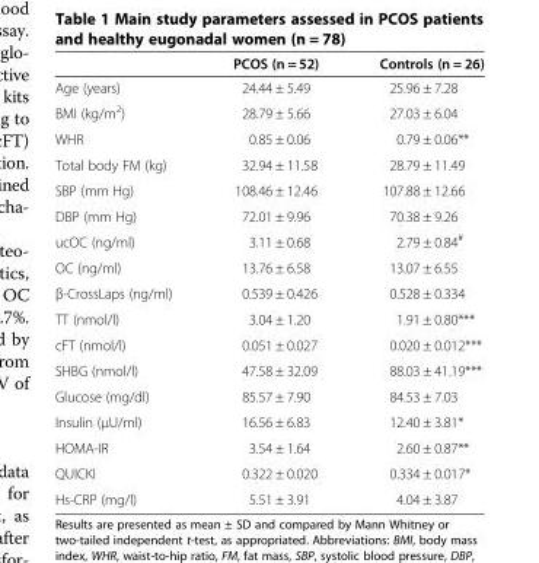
<table><thead><tr><td></td><td>PCOS (n = 52)</td><td>Controls (n = 26)</td></tr></thead><tbody><tr><td>Age (years)</td><td>24.44 ± 5.49</td><td>25.96 ± 7.28</td></tr><tr><td>BMI (kg/m<sup>2</sup>)</td><td>28.79 ± 5.66</td><td>27.03 ± 6.04</td></tr><tr><td>WHR</td><td>0.85 ± 0.06</td><td>0.79 ± 0.06**</td></tr><tr><td>Total body FM (kg)</td><td>32.94 ± 11.58</td><td>28.79 ± 11.49</td></tr><tr><td>SBP (mm Hg)</td><td>108.46 ± 12.46</td><td>107.88 ± 12.66</td></tr><tr><td>DBP (mm Hg)</td><td>72.01 ± 9.96</td><td>70.38 ± 9.26</td></tr><tr><td>ucOC (ng/ml)</td><td>3.11 ± 0.68</td><td>2.79 ± 0.84<sup>#</sup></td></tr><tr><td>OC (ng/ml)</td><td>13.76 ± 6.58</td><td>13.07 ± 6.55</td></tr><tr><td>β-CrossLaps (ng/ml)</td><td>0.539 ± 0.426</td><td>0.528 ± 0.334</td></tr><tr><td>TT (nmol/l)</td><td>3.04 ± 1.20</td><td>1.91 ± 0.80***</td></tr><tr><td>cFT (nmol/l)</td><td>0.051 ± 0.027</td><td>0.020 ± 0.012***</td></tr><tr><td>SHBG (nmol/l)</td><td>47.58 ± 32.09</td><td>88.03 ± 41.19***</td></tr><tr><td>Glucose (mg/dl)</td><td>85.57 ± 7.90</td><td>84.53 ± 7.03</td></tr><tr><td>Insulin (μU/ml)</td><td>16.56 ± 6.83</td><td>12.40 ± 3.81*</td></tr><tr><td>HOMA-IR</td><td>3.54 ± 1.64</td><td>2.60 ± 0.87**</td></tr><tr><td>QUICKI</td><td>0.322 ± 0.020</td><td>0.334 ± 0.017*</td></tr><tr><td>Hs-CRP (mg/l)</td><td>5.51 ± 3.91</td><td>4.04 ± 3.87</td></tr></tbody></table>